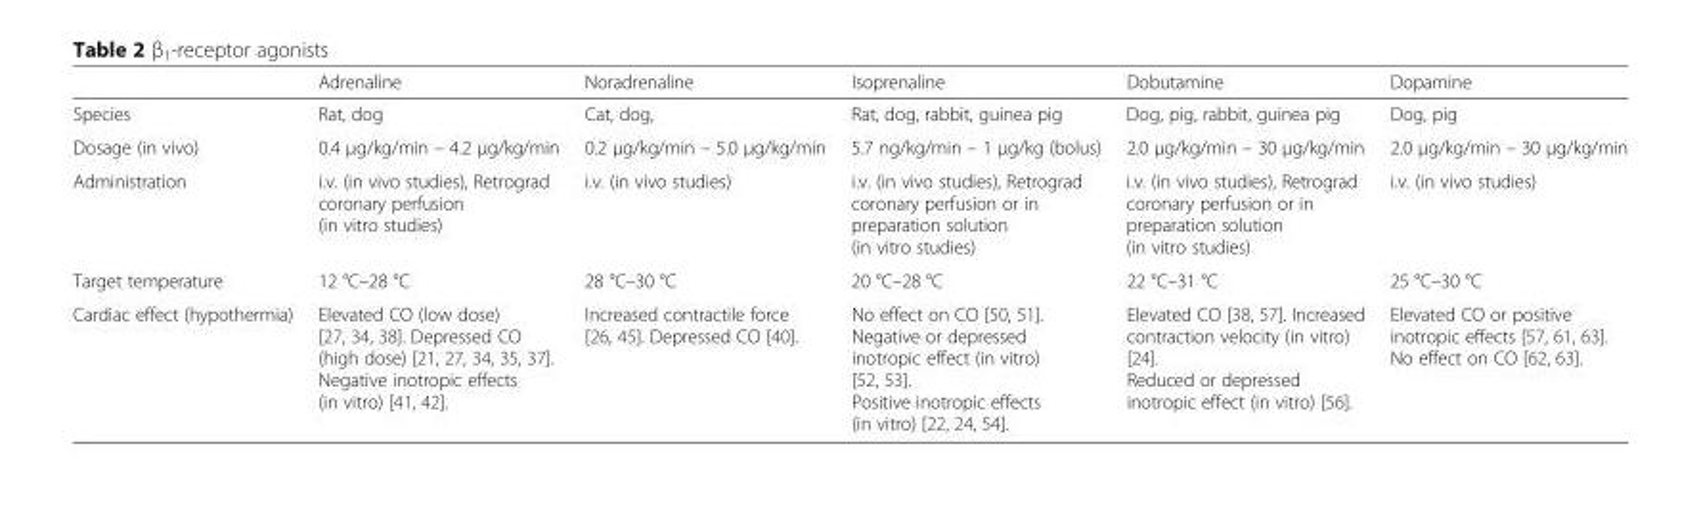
<table><thead><tr><td></td><td>Adrenaline</td><td>Noradrenaline</td><td>Isoprenaline</td><td>Dobutamine</td><td>Dopamine</td></tr></thead><tbody><tr><td>Species</td><td>Rat, dog</td><td>Cat, dog,</td><td>Rat, dog, rabbit, guinea pig</td><td>Dog, pig, rabbit, guinea pig</td><td>Dog, pig</td></tr><tr><td>Dosage (in vivo)</td><td>0.4 μg/kg/min – 4.2 μg/kg/min</td><td>0.2 μg/kg/min – 5.0 μg/kg/min</td><td>5.7 ng/kg/min – 1 μg/kg (bolus)</td><td>2.0 μg/kg/min – 30 μg/kg/min</td><td>2.0 μg/kg/min – 30 μg/kg/min</td></tr><tr><td>Administration</td><td>i.v. (in vivo studies), Retrograd coronary perfusion (in vitro studies)</td><td>i.v. (in vivo studies)</td><td>i.v. (in vivo studies), Retrograd coronary perfusion or in preparation solution (in vitro studies)</td><td>i.v. (in vivo studies), Retrograd coronary perfusion or in preparation solution (in vitro studies)</td><td>i.v. (in vivo studies)</td></tr><tr><td>Target temperature</td><td>12 °C–28 °C</td><td>28 °C–30 °C</td><td>20 °C–28 °C</td><td>22 °C–31 °C</td><td>25 °C–30 °C</td></tr><tr><td>Cardiac effect (hypothermia)</td><td>Elevated CO (low dose) [27, 34, 38]. Depressed CO (high dose) [21, 27, 34, 35, 37]. Negative inotropic effects (in vitro) [41, 42].</td><td>Increased contractile force [26, 45]. Depressed CO [40].</td><td>No effect on CO [50, 51]. Negative or depressed inotropic effect (in vitro) [52, 53]. Positive inotropic effects (in vitro) [22, 24, 54].</td><td>Elevated CO [38, 57]. Increased contraction velocity (in vitro) [24]. Reduced or depressed inotropic effect (in vitro) [56].</td><td>Elevated CO or positive inotropic effects [57, 61, 63]. No effect on CO [62, 63].</td></tr></tbody></table>